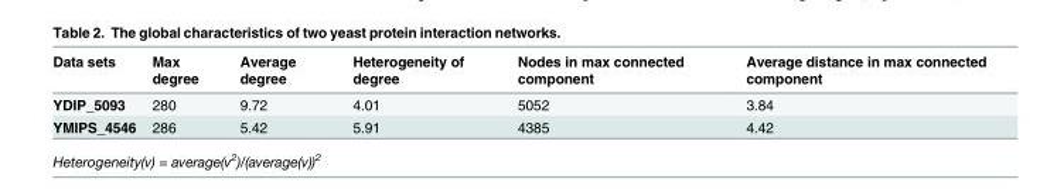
<table><thead><tr><td>Data sets</td><td>Max degree</td><td>Average degree</td><td>Heterogeneity of degree</td><td>Nodes in max connected component</td><td>Average distance in max connected component</td></tr></thead><tbody><tr><td>YDIP_5093</td><td>280</td><td>9.72</td><td>4.01</td><td>5052</td><td>3.84</td></tr><tr><td>YMIPS_4546</td><td>286</td><td>5.42</td><td>5.91</td><td>4385</td><td>4.42</td></tr></tbody></table>